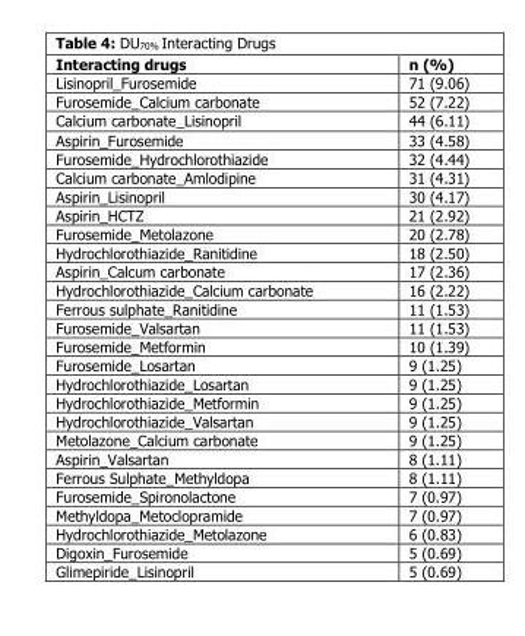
<table><thead><tr><td>Interacting drugs</td><td>n (%)</td></tr></thead><tbody><tr><td>Lisinopril_Furosemide</td><td>71 (9.06)</td></tr><tr><td>Furosemide_Calcium carbonate</td><td>52 (7.22)</td></tr><tr><td>Calcium carbonate_Lisinopril</td><td>44 (6.11)</td></tr><tr><td>Aspirin_Furosemide</td><td>33 (4.58)</td></tr><tr><td>Furosemide_Hydrochlorothiazide</td><td>32 (4.44)</td></tr><tr><td>Calcium carbonate_Amlodipine</td><td>31 (4.31)</td></tr><tr><td>Aspirin_Lisinopril</td><td>30 (4.17)</td></tr><tr><td>Aspirin_HCTZ</td><td>21 (2.92)</td></tr><tr><td>Furosemide_Metolazone</td><td>20 (2.78)</td></tr><tr><td>Hydrochlorothiazide_Ranitidine</td><td>18 (2.50)</td></tr><tr><td>Aspirin_Calcum carbonate</td><td>17 (2.36)</td></tr><tr><td>Hydrochlorothiazide_Calcium carbonate</td><td>16 (2.22)</td></tr><tr><td>Ferrous sulphate_Ranitidine</td><td>11 (1.53)</td></tr><tr><td>Furosemide_Valsartan</td><td>11 (1.53)</td></tr><tr><td>Furosemide_Metformin</td><td>10 (1.39)</td></tr><tr><td>Furosemide_Losartan</td><td>9 (1.25)</td></tr><tr><td>Hydrochlorothiazide_Losartan</td><td>9 (1.25)</td></tr><tr><td>Hydrochlorothiazide_Metformin</td><td>9 (1.25)</td></tr><tr><td>Hydrochlorothiazide_Valsartan</td><td>9 (1.25)</td></tr><tr><td>Metolazone_Calcium carbonate</td><td>9 (1.25)</td></tr><tr><td>Aspirin_Valsartan</td><td>8 (1.11)</td></tr><tr><td>Ferrous Sulphate_Methyldopa</td><td>8 (1.11)</td></tr><tr><td>Furosemide_Spironolactone</td><td>7 (0.97)</td></tr><tr><td>Methyldopa_Metoclopramide</td><td>7 (0.97)</td></tr><tr><td>Hydrochlorothiazide_Metolazone</td><td>6 (0.83)</td></tr><tr><td>Digoxin_Furosemide</td><td>5 (0.69)</td></tr><tr><td>Glimepiride_Lisinopril</td><td>5 (0.69)</td></tr></tbody></table>